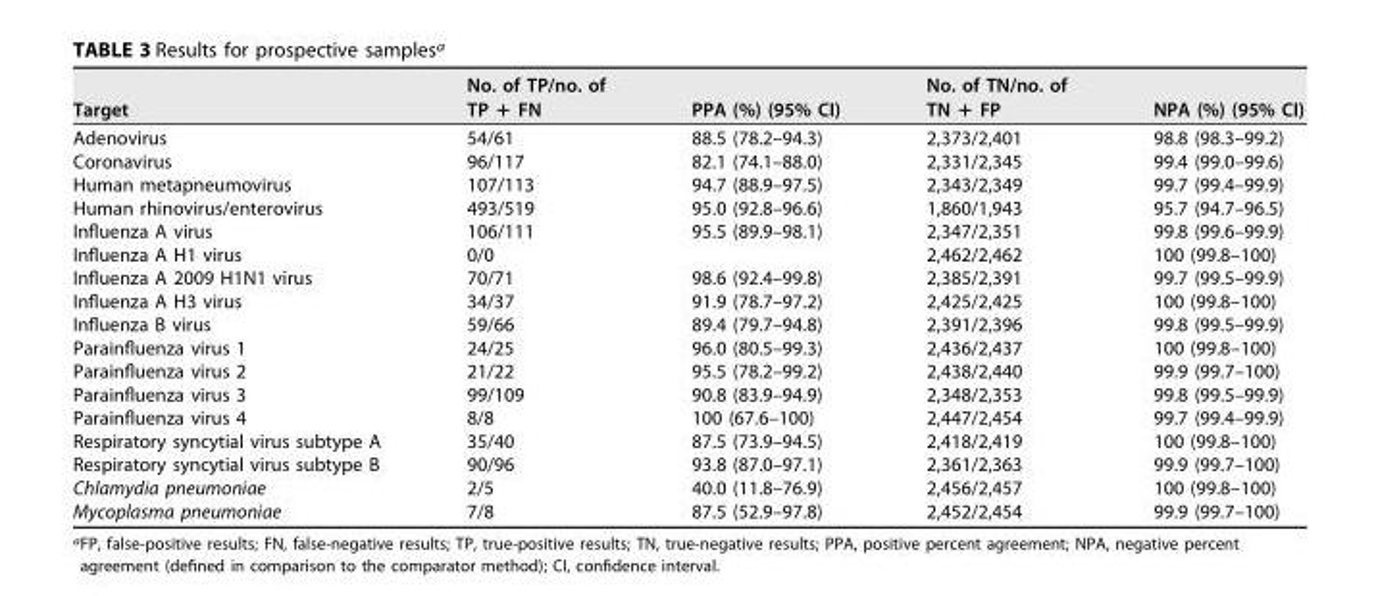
<table><thead><tr><td>Target</td><td>No. of TP/no. of TP + FN</td><td>PPA (%) (95% CI)</td><td>No. of TN/no. of TN + FP</td><td>NPA (%) (95% CI)</td></tr></thead><tbody><tr><td>Adenovirus</td><td>54/61</td><td>88.5 (78.2–94.3)</td><td>2,373/2,401</td><td>98.8 (98.3–99.2)</td></tr><tr><td>Coronavirus</td><td>96/117</td><td>82.1 (74.1–88.0)</td><td>2,331/2,345</td><td>99.4 (99.0–99.6)</td></tr><tr><td>Human metapneumovirus</td><td>107/113</td><td>94.7 (88.9–97.5)</td><td>2,343/2,349</td><td>99.7 (99.4–99.9)</td></tr><tr><td>Human rhinovirus/enterovirus</td><td>493/519</td><td>95.0 (92.8–96.6)</td><td>1,860/1,943</td><td>95.7 (94.7–96.5)</td></tr><tr><td>Influenza A virus</td><td>106/111</td><td>95.5 (89.9–98.1)</td><td>2,347/2,351</td><td>99.8 (99.6–99.9)</td></tr><tr><td>Influenza A H1 virus</td><td>0/0</td><td></td><td>2,462/2,462</td><td>100 (99.8–100)</td></tr><tr><td>Influenza A 2009 H1N1 virus</td><td>70/71</td><td>98.6 (92.4–99.8)</td><td>2,385/2,391</td><td>99.7 (99.5–99.9)</td></tr><tr><td>Influenza A H3 virus</td><td>34/37</td><td>91.9 (78.7–97.2)</td><td>2,425/2,425</td><td>100 (99.8–100)</td></tr><tr><td>Influenza B virus</td><td>59/66</td><td>89.4 (79.7–94.8)</td><td>2,391/2,396</td><td>99.8 (99.5–99.9)</td></tr><tr><td>Parainfluenza virus 1</td><td>24/25</td><td>96.0 (80.5–99.3)</td><td>2,436/2,437</td><td>100 (99.8–100)</td></tr><tr><td>Parainfluenza virus 2</td><td>21/22</td><td>95.5 (78.2–99.2)</td><td>2,438/2,440</td><td>99.9 (99.7–100)</td></tr><tr><td>Parainfluenza virus 3</td><td>99/109</td><td>90.8 (83.9–94.9)</td><td>2,348/2,353</td><td>99.8 (99.5–99.9)</td></tr><tr><td>Parainfluenza virus 4</td><td>8/8</td><td>100 (67.6–100)</td><td>2,447/2,454</td><td>99.7 (99.4–99.9)</td></tr><tr><td>Respiratory syncytial virus subtype A</td><td>35/40</td><td>87.5 (73.9–94.5)</td><td>2,418/2,419</td><td>100 (99.8–100)</td></tr><tr><td>Respiratory syncytial virus subtype B</td><td>90/96</td><td>93.8 (87.0–97.1)</td><td>2,361/2,363</td><td>99.9 (99.7–100)</td></tr><tr><td>Chlamydia pneumoniae</td><td>2/5</td><td>40.0 (11.8–76.9)</td><td>2,456/2,457</td><td>100 (99.8–100)</td></tr><tr><td>Mycoplasma pneumoniae</td><td>7/8</td><td>87.5 (52.9–97.8)</td><td>2,452/2,454</td><td>99.9 (99.7–100)</td></tr></tbody></table>